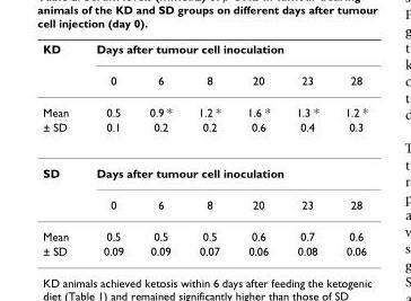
<table><thead><tr><td rowspan="2">KD</td><td colspan="6">Days after tumour cell inoculation</td></tr><tr><td>0</td><td>6</td><td>8</td><td>20</td><td>23</td><td>28</td></tr></thead><tbody><tr><td>Mean</td><td>0.5</td><td>0.9 *</td><td>1.2 *</td><td>1.6 *</td><td>1.3 *</td><td>1.2 *</td></tr><tr><td>± SD</td><td>0.1</td><td>0.2</td><td>0.2</td><td>0.6</td><td>0.4</td><td>0.3</td></tr><tr><td rowspan="2">SD</td><td colspan="6">Days after tumour cell inoculation</td></tr><tr><td>0</td><td>6</td><td>8</td><td>20</td><td>23</td><td>28</td></tr><tr><td>Mean</td><td>0.5</td><td>0.5</td><td>0.5</td><td>0.6</td><td>0.7</td><td>0.6</td></tr><tr><td>± SD</td><td>0.09</td><td>0.09</td><td>0.07</td><td>0.06</td><td>0.08</td><td>0.06</td></tr></tbody></table>